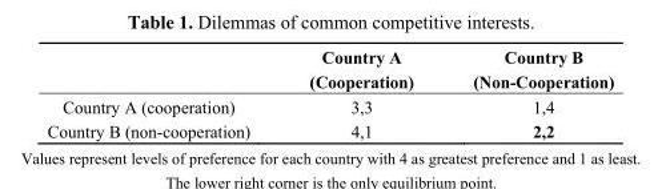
<table><thead><tr><td></td><td>Country A (Cooperation)</td><td>Country B (Non-Cooperation)</td></tr></thead><tbody><tr><td>Country A (cooperation)</td><td>3,3</td><td>1,4</td></tr><tr><td>Country B (non-cooperation)</td><td>4,1</td><td>2,2</td></tr></tbody></table>